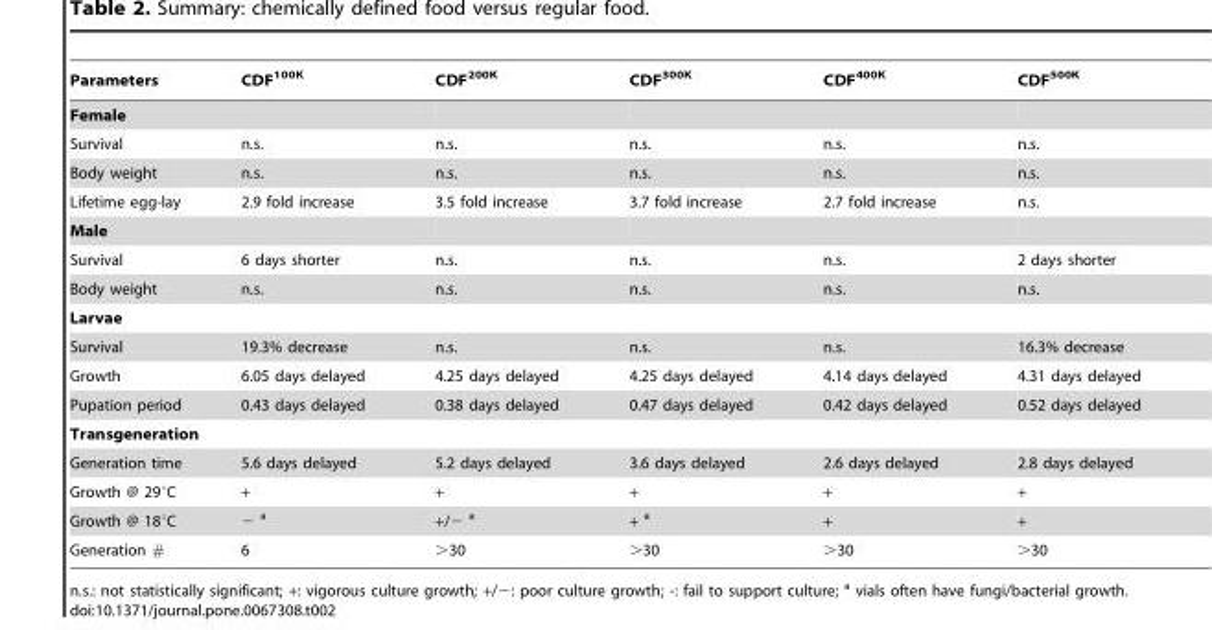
<table><thead><tr><td>Parameters</td><td>CDF<sup>100K</sup></td><td>CDF<sup>200K</sup></td><td>CDF<sup>300K</sup></td><td>CDF<sup>400K</sup></td><td>CDF<sup>500K</sup></td></tr></thead><tbody><tr><td colspan="6">Female</td></tr><tr><td>Survival</td><td>n.s.</td><td>n.s.</td><td>n.s.</td><td>n.s.</td><td>n.s.</td></tr><tr><td>Body weight</td><td>n.s.</td><td>n.s.</td><td>n.s.</td><td>n.s.</td><td>n.s.</td></tr><tr><td>Lifetime egg-lay</td><td>2.9 fold increase</td><td>3.5 fold increase</td><td>3.7 fold increase</td><td>2.7 fold increase</td><td>n.s.</td></tr><tr><td colspan="6">Male</td></tr><tr><td>Survival</td><td>6 days shorter</td><td>n.s.</td><td>n.s.</td><td>n.s.</td><td>2 days shorter</td></tr><tr><td>Body weight</td><td>n.s.</td><td>n.s.</td><td>n.s.</td><td>n.s.</td><td>n.s.</td></tr><tr><td colspan="6">Larvae</td></tr><tr><td>Survival</td><td>19.3% decrease</td><td>n.s.</td><td>n.s.</td><td>n.s.</td><td>16.3% decrease</td></tr><tr><td>Growth</td><td>6.05 days delayed</td><td>4.25 days delayed</td><td>4.25 days delayed</td><td>4.14 days delayed</td><td>4.31 days delayed</td></tr><tr><td>Pupation period</td><td>0.43 days delayed</td><td>0.38 days delayed</td><td>0.47 days delayed</td><td>0.42 days delayed</td><td>0.52 days delayed</td></tr><tr><td colspan="6">Transgeneration</td></tr><tr><td>Generation time</td><td>5.6 days delayed</td><td>5.2 days delayed</td><td>3.6 days delayed</td><td>2.6 days delayed</td><td>2.8 days delayed</td></tr><tr><td>Growth @ 29°C</td><td>+</td><td>+</td><td>+</td><td>+</td><td>+</td></tr><tr><td>Growth @ 18°C</td><td>− <sup>a</sup></td><td>+/− <sup>a</sup></td><td>+ <sup>a</sup></td><td>+</td><td>+</td></tr><tr><td>Generation #</td><td>6</td><td>&gt;30</td><td>&gt;30</td><td>&gt;30</td><td>&gt;30</td></tr></tbody></table>